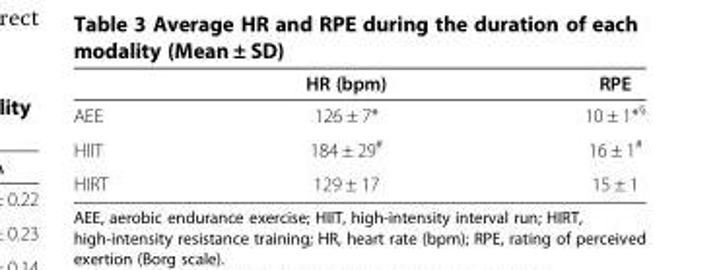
<table><thead><tr><td></td><td>HR (bpm)</td><td>RPE</td></tr></thead><tbody><tr><td>AEE</td><td>126 ± 7*</td><td>10 ± 1*§</td></tr><tr><td>HIIT</td><td>184 ± 29#</td><td>16 ± 1#</td></tr><tr><td>HIRT</td><td>129 ± 17</td><td>15 ± 1</td></tr></tbody></table>